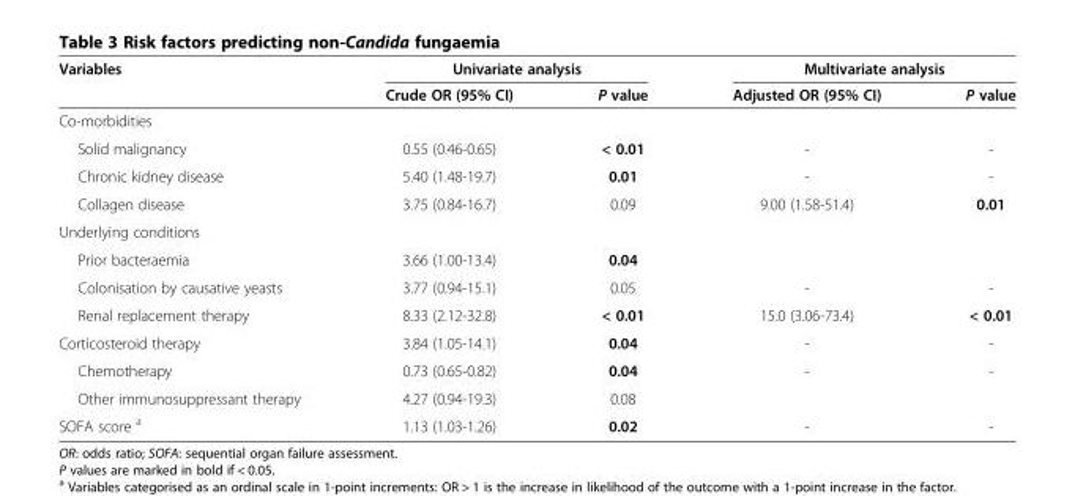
<table><thead><tr><td rowspan="2">Variables</td><td colspan="2">Univariate analysis</td><td colspan="2">Multivariate analysis</td></tr><tr><td>Crude OR (95% CI)</td><td>P value</td><td>Adjusted OR (95% CI)</td><td>P value</td></tr></thead><tbody><tr><td colspan="5">Co-morbidities</td></tr><tr><td>Solid malignancy</td><td>0.55 (0.46-0.65)</td><td>&lt; 0.01</td><td>-</td><td>-</td></tr><tr><td>Chronic kidney disease</td><td>5.40 (1.48-19.7)</td><td>0.01</td><td>-</td><td>-</td></tr><tr><td>Collagen disease</td><td>3.75 (0.84-16.7)</td><td>0.09</td><td>9.00 (1.58-51.4)</td><td>0.01</td></tr><tr><td colspan="5">Underlying conditions</td></tr><tr><td>Prior bacteraemia</td><td>3.66 (1.00-13.4)</td><td>0.04</td><td></td><td></td></tr><tr><td>Colonisation by causative yeasts</td><td>3.77 (0.94-15.1)</td><td>0.05</td><td>-</td><td>-</td></tr><tr><td>Renal replacement therapy</td><td>8.33 (2.12-32.8)</td><td>&lt; 0.01</td><td>15.0 (3.06-73.4)</td><td>&lt; 0.01</td></tr><tr><td>Corticosteroid therapy</td><td>3.84 (1.05-14.1)</td><td>0.04</td><td>-</td><td>-</td></tr><tr><td>Chemotherapy</td><td>0.73 (0.65-0.82)</td><td>0.04</td><td>-</td><td>-</td></tr><tr><td>Other immunosuppressant therapy</td><td>4.27 (0.94-19.3)</td><td>0.08</td><td></td><td></td></tr><tr><td>SOFA score <sup>a</sup></td><td>1.13 (1.03-1.26)</td><td>0.02</td><td>-</td><td>-</td></tr></tbody></table>